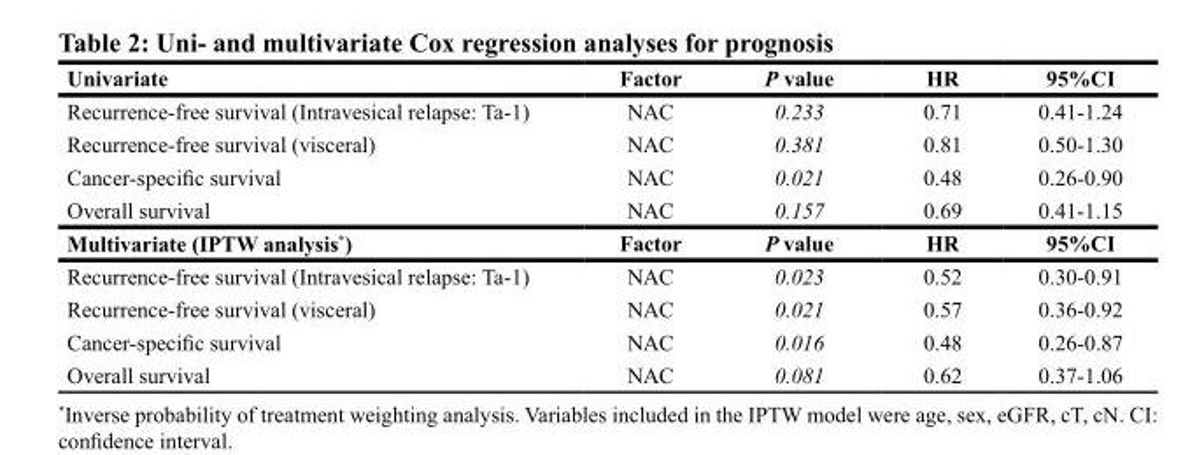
<table><thead><tr><td>Univariate</td><td>Factor</td><td>P value</td><td>HR</td><td>95%CI</td></tr></thead><tbody><tr><td>Recurrence-free survival (Intravesical relapse: Ta-1)</td><td>NAC</td><td>0.233</td><td>0.71</td><td>0.41-1.24</td></tr><tr><td>Recurrence-free survival (visceral)</td><td>NAC</td><td>0.381</td><td>0.81</td><td>0.50-1.30</td></tr><tr><td>Cancer-specific survival</td><td>NAC</td><td>0.021</td><td>0.48</td><td>0.26-0.90</td></tr><tr><td>Overall survival</td><td>NAC</td><td>0.157</td><td>0.69</td><td>0.41-1.15</td></tr><tr><td>Multivariate (IPTW analysis*)</td><td>Factor</td><td>P value</td><td>HR</td><td>95%CI</td></tr><tr><td>Recurrence-free survival (Intravesical relapse: Ta-1)</td><td>NAC</td><td>0.023</td><td>0.52</td><td>0.30-0.91</td></tr><tr><td>Recurrence-free survival (visceral)</td><td>NAC</td><td>0.021</td><td>0.57</td><td>0.36-0.92</td></tr><tr><td>Cancer-specific survival</td><td>NAC</td><td>0.016</td><td>0.48</td><td>0.26-0.87</td></tr><tr><td>Overall survival</td><td>NAC</td><td>0.081</td><td>0.62</td><td>0.37-1.06</td></tr></tbody></table>